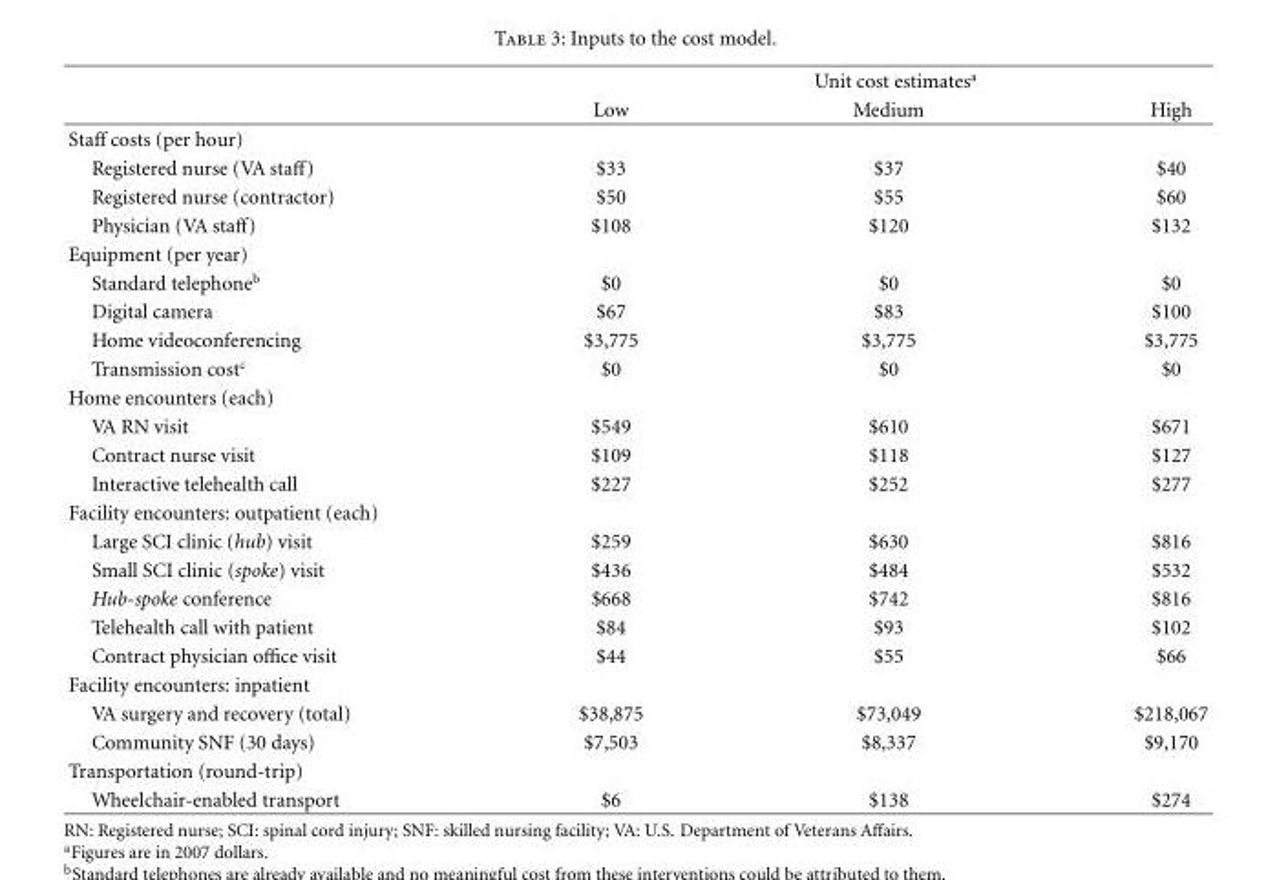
<table><thead><tr><td rowspan="2"></td><td colspan="3">Unit cost estimates<sup>a</sup></td></tr><tr><td>Low</td><td>Medium</td><td>High</td></tr></thead><tbody><tr><td colspan="4">Staff costs (per hour)</td></tr><tr><td>Registered nurse (VA staff)</td><td>$33</td><td>$37</td><td>$40</td></tr><tr><td>Registered nurse (contractor)</td><td>$50</td><td>$55</td><td>$60</td></tr><tr><td>Physician (VA staff)</td><td>$108</td><td>$120</td><td>$132</td></tr><tr><td colspan="4">Equipment (per year)</td></tr><tr><td>Standard telephone<sup>b</sup></td><td>$0</td><td>$0</td><td>$0</td></tr><tr><td>Digital camera</td><td>$67</td><td>$83</td><td>$100</td></tr><tr><td>Home videoconferencing</td><td>$3,775</td><td>$3,775</td><td>$3,775</td></tr><tr><td>Transmission cost<sup>c</sup></td><td>$0</td><td>$0</td><td>$0</td></tr><tr><td colspan="4">Home encounters (each)</td></tr><tr><td>VA RN visit</td><td>$549</td><td>$610</td><td>$671</td></tr><tr><td>Contract nurse visit</td><td>$109</td><td>$118</td><td>$127</td></tr><tr><td>Interactive telehealth call</td><td>$227</td><td>$252</td><td>$277</td></tr><tr><td colspan="4">Facility encounters: outpatient (each)</td></tr><tr><td>Large SCI clinic (hub) visit</td><td>$259</td><td>$630</td><td>$816</td></tr><tr><td>Small SCI clinic (spoke) visit</td><td>$436</td><td>$484</td><td>$532</td></tr><tr><td>Hub-spoke conference</td><td>$668</td><td>$742</td><td>$816</td></tr><tr><td>Telehealth call with patient</td><td>$84</td><td>$93</td><td>$102</td></tr><tr><td>Contract physician office visit</td><td>$44</td><td>$55</td><td>$66</td></tr><tr><td colspan="4">Facility encounters: inpatient</td></tr><tr><td>VA surgery and recovery (total)</td><td>$38,875</td><td>$73,049</td><td>$218,067</td></tr><tr><td>Community SNF (30 days)</td><td>$7,503</td><td>$8,337</td><td>$9,170</td></tr><tr><td colspan="4">Transportation (round-trip)</td></tr><tr><td>Wheelchair-enabled transport</td><td>$6</td><td>$138</td><td>$274</td></tr></tbody></table>